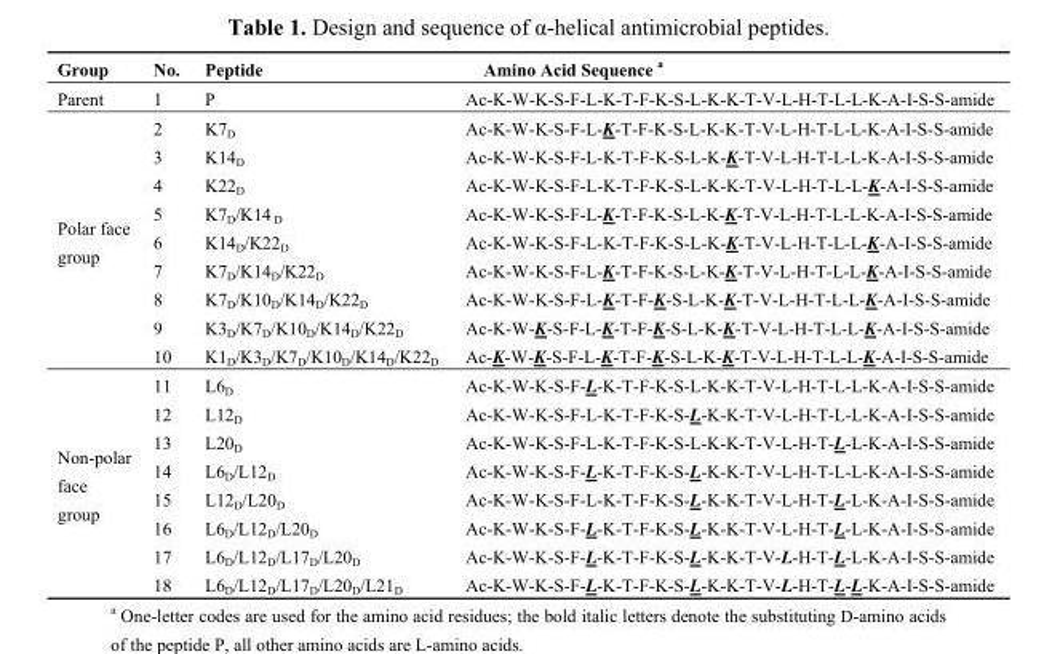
<table><thead><tr><td>Group</td><td>No.</td><td>Peptide</td><td>Amino Acid Sequence <sup>a</sup></td></tr></thead><tbody><tr><td>Parent</td><td>1</td><td>P</td><td>Ac-K-W-K-S-F-L-K-T-F-K-S-L-K-K-T-V-L-H-T-L-L-K-A-I-S-S-amide</td></tr><tr><td rowspan="9">Polar face group</td><td>2</td><td>K7<sub>D</sub></td><td>Ac-K-W-K-S-F-L-K-T-F-K-S-L-K-K-T-V-L-H-T-L-L-K-A-I-S-S-amide</td></tr><tr><td>3</td><td>K14<sub>D</sub></td><td>Ac-K-W-K-S-F-L-K-T-F-K-S-L-K-K-T-V-L-H-T-L-L-K-A-I-S-S-amide</td></tr><tr><td>4</td><td>K22<sub>D</sub></td><td>Ac-K-W-K-S-F-L-K-T-F-K-S-L-K-K-T-V-L-H-T-L-L-K-A-I-S-S-amide</td></tr><tr><td>5</td><td>K7<sub>D</sub>/K14 <sub>D</sub></td><td>Ac-K-W-K-S-F-L-K-T-F-K-S-L-K-K-T-V-L-H-T-L-L-K-A-I-S-S-amide</td></tr><tr><td>6</td><td>K14<sub>D</sub>/K22<sub>D</sub></td><td>Ac-K-W-K-S-F-L-K-T-F-K-S-L-K-K-T-V-L-H-T-L-L-K-A-I-S-S-amide</td></tr><tr><td>7</td><td>K7<sub>D</sub>/K14<sub>D</sub>/K22<sub>D</sub></td><td>Ac-K-W-K-S-F-L-K-T-F-K-S-L-K-K-T-V-L-H-T-L-L-K-A-I-S-S-amide</td></tr><tr><td>8</td><td>K7<sub>D</sub>/K10<sub>D</sub>/K14<sub>D</sub>/K22<sub>D</sub></td><td>Ac-K-W-K-S-F-L-K-T-F-K-S-L-K-K-T-V-L-H-T-L-L-K-A-I-S-S-amide</td></tr><tr><td>9</td><td>K3<sub>D</sub>/K7<sub>D</sub>/K10<sub>D</sub>/K14<sub>D</sub>/K22<sub>D</sub></td><td>Ac-K-W-K-S-F-L-K-T-F-K-S-L-K-K-T-V-L-H-T-L-L-K-A-I-S-S-amide</td></tr><tr><td>10</td><td>K1<sub>D</sub>/K3<sub>D</sub>/K7<sub>D</sub>/K10<sub>D</sub>/K14<sub>D</sub>/K22<sub>D</sub></td><td>Ac-K-W-K-S-F-L-K-T-F-K-S-L-K-K-T-V-L-H-T-L-L-K-A-I-S-S-amide</td></tr><tr><td rowspan="8">Non-polar face group</td><td>11</td><td>L6<sub>D</sub></td><td>Ac-K-W-K-S-F-L-K-T-F-K-S-L-K-K-T-V-L-H-T-L-L-K-A-I-S-S-amide</td></tr><tr><td>12</td><td>L12<sub>D</sub></td><td>Ac-K-W-K-S-F-L-K-T-F-K-S-L-K-K-T-V-L-H-T-L-L-K-A-I-S-S-amide</td></tr><tr><td>13</td><td>L20<sub>D</sub></td><td>Ac-K-W-K-S-F-L-K-T-F-K-S-L-K-K-T-V-L-H-T-L-L-K-A-I-S-S-amide</td></tr><tr><td>14</td><td>L6<sub>D</sub>/L12<sub>D</sub></td><td>Ac-K-W-K-S-F-L-K-T-F-K-S-L-K-K-T-V-L-H-T-L-L-K-A-I-S-S-amide</td></tr><tr><td>15</td><td>L12<sub>D</sub>/L20<sub>D</sub></td><td>Ac-K-W-K-S-F-L-K-T-F-K-S-L-K-K-T-V-L-H-T-L-L-K-A-I-S-S-amide</td></tr><tr><td>16</td><td>L6<sub>D</sub>/L12<sub>D</sub>/L20<sub>D</sub></td><td>Ac-K-W-K-S-F-L-K-T-F-K-S-L-K-K-T-V-L-H-T-L-L-K-A-I-S-S-amide</td></tr><tr><td>17</td><td>L6<sub>D</sub>/L12<sub>D</sub>/L17<sub>D</sub>/L20<sub>D</sub></td><td>Ac-K-W-K-S-F-L-K-T-F-K-S-L-K-K-T-V-L-H-T-L-L-K-A-I-S-S-amide</td></tr><tr><td>18</td><td>L6<sub>D</sub>/L12<sub>D</sub>/L17<sub>D</sub>/L20<sub>D</sub>/L21<sub>D</sub></td><td>Ac-K-W-K-S-F-L-K-T-F-K-S-L-K-K-T-V-L-H-T-L-L-K-A-I-S-S-amide</td></tr></tbody></table>